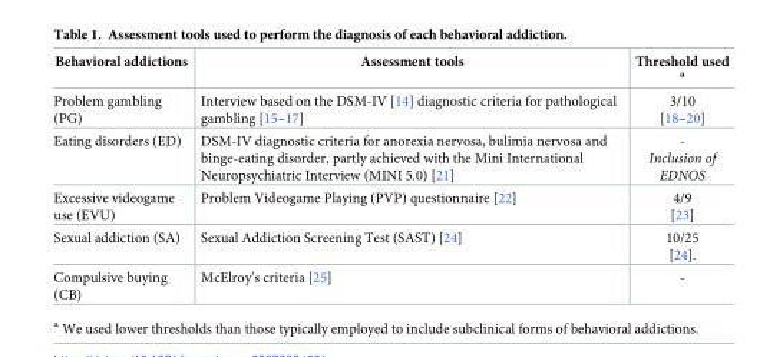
<table><thead><tr><td>Behavioral addictions</td><td>Assessment tools</td><td>Threshold used <sup>a</sup></td></tr></thead><tbody><tr><td>Problem gambling (PG)</td><td>Interview based on the DSM-IV [14] diagnostic criteria for pathological gambling [15–17]</td><td>3/10 [18–20]</td></tr><tr><td>Eating disorders (ED)</td><td>DSM-IV diagnostic criteria for anorexia nervosa, bulimia nervosa and binge-eating disorder, partly achieved with the Mini International Neuropsychiatric Interview (MINI 5.0) [21]</td><td>- Inclusion of EDNOS</td></tr><tr><td>Excessive videogame use (EVU)</td><td>Problem Videogame Playing (PVP) questionnaire [22]</td><td>4/9 [23]</td></tr><tr><td>Sexual addiction (SA)</td><td>Sexual Addiction Screening Test (SAST) [24]</td><td>10/25 [24].</td></tr><tr><td>Compulsive buying (CB)</td><td>McElroy’s criteria [25]</td><td>-</td></tr></tbody></table>